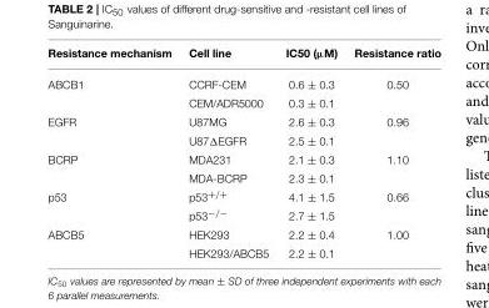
<table><thead><tr><td>Resistance mechanism</td><td>Cell line</td><td>IC50 (µM)</td><td>Resistance ratio</td></tr></thead><tbody><tr><td rowspan="2">ABCB1</td><td>CCRF-CEM</td><td>0.6 ± 0.3</td><td>0.50</td></tr><tr><td>CEM/ADR5000</td><td>0.3 ± 0.1</td><td></td></tr><tr><td rowspan="2">EGFR</td><td>U87MG</td><td>2.6 ± 0.3</td><td>0.96</td></tr><tr><td>U87ΔEGFR</td><td>2.5 ± 0.1</td><td></td></tr><tr><td rowspan="2">BCRP</td><td>MDA231</td><td>2.1 ± 0.3</td><td>1.10</td></tr><tr><td>MDA-BCRP</td><td>2.3 ± 0.1</td><td></td></tr><tr><td rowspan="2">p53</td><td>p53<sup>+/+</sup></td><td>4.1 ± 1.5</td><td>0.66</td></tr><tr><td>p53<sup>−/−</sup></td><td>2.7 ± 1.5</td><td></td></tr><tr><td rowspan="2">ABCB5</td><td>HEK293</td><td>2.2 ± 0.4</td><td>1.00</td></tr><tr><td>HEK293/ABCB5</td><td>2.2 ± 0.1</td><td></td></tr></tbody></table>